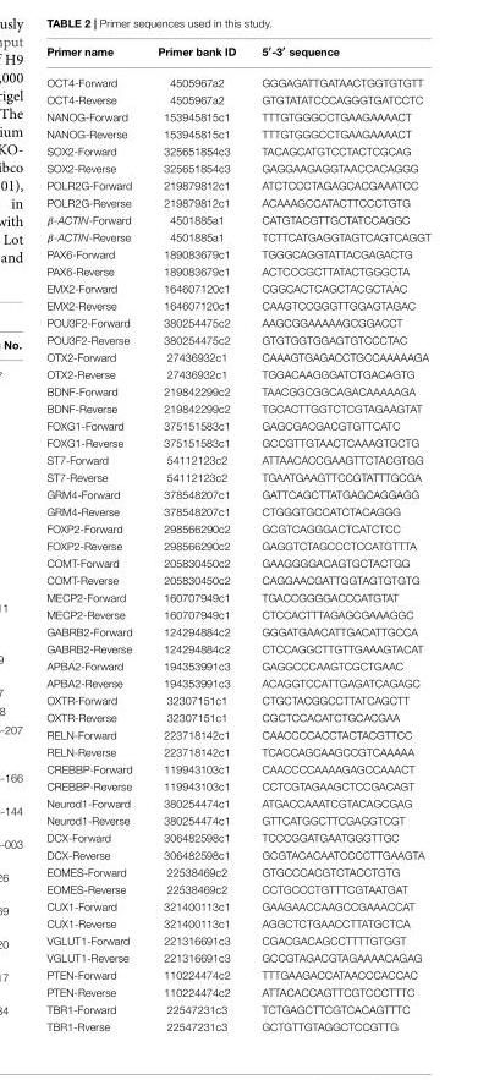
<table><thead><tr><td>Primer name</td><td>Primer bank ID</td><td>5′-3′ sequence</td></tr></thead><tbody><tr><td>OCT4-Forward</td><td>4505967a2</td><td>GGGAGATTGATAACTGGTGTGTT</td></tr><tr><td>OCT4-Reverse</td><td>4505967a2</td><td>GTGTATATCCCAGGGTGATCCTC</td></tr><tr><td>NANOG-Forward</td><td>153945815c1</td><td>TTTGTGGGCCTGAAGAAAACT</td></tr><tr><td>NANOG-Reverse</td><td>153945815c1</td><td>TTTGTGGGCCTGAAGAAAACT</td></tr><tr><td>SOX2-Forward</td><td>325651854c3</td><td>TACAGCATGTCCTACTCGCAG</td></tr><tr><td>SOX2-Reverse</td><td>325651854c3</td><td>GAGGAAGAGGTAACCACAGGG</td></tr><tr><td>POLR2G-Forward</td><td>219879812c1</td><td>ATCTCCCTAGAGCACGAAATCC</td></tr><tr><td>POLR2G-Reverse</td><td>219879812c1</td><td>ACAAAGCCATACTTCCCTGTG</td></tr><tr><td>β-ACTIN-Forward</td><td>4501885a1</td><td>CATGTACGTTGCTATCCAGGC</td></tr><tr><td>β-ACTIN-Reverse</td><td>4501885a1</td><td>TCTTCATGAGGTAGTCAGTCAGGT</td></tr><tr><td>PAX6-Forward</td><td>189083679c1</td><td>TGGGCAGGTATTACGAGACTG</td></tr><tr><td>PAX6-Reverse</td><td>189083679c1</td><td>ACTCCCGCTTATACTGGGCTA</td></tr><tr><td>EMX2-Forward</td><td>164607120c1</td><td>CGGCACTCAGCTACGCTAAC</td></tr><tr><td>EMX2-Reverse</td><td>164607120c1</td><td>CAAGTCCGGGTTGGAGTAGAC</td></tr><tr><td>POU3F2-Forward</td><td>380254475c2</td><td>AAGCGGAAAAAGCGGACCT</td></tr><tr><td>POU3F2-Reverse</td><td>380254475c2</td><td>GTGTGGTGGAGTGTCCCTAC</td></tr><tr><td>OTX2-Forward</td><td>27436932c1</td><td>CAAAGTGAGACCTGCCAAAAAGA</td></tr><tr><td>OTX2-Reverse</td><td>27436932c1</td><td>TGGACAAGGGATCTGACAGTG</td></tr><tr><td>BDNF-Forward</td><td>219842299c2</td><td>TAACGGCGGCAGACAAAAAGA</td></tr><tr><td>BDNF-Reverse</td><td>219842299c2</td><td>TGCACTTGGTCTCGTAGAAGTAT</td></tr><tr><td>FOXG1-Forward</td><td>375151583c1</td><td>GAGCGACGACGTGTTCATC</td></tr><tr><td>FOXG1-Reverse</td><td>375151583c1</td><td>GCCGTTGTAACTCAAAGTGCTG</td></tr><tr><td>ST7-Forward</td><td>54112123c2</td><td>ATTAACACCGAAGTTCTACGTGG</td></tr><tr><td>ST7-Reverse</td><td>54112123c2</td><td>TGAATGAAGTTCCGTATTTGCGA</td></tr><tr><td>GRM4-Forward</td><td>378548207c1</td><td>GATTCAGCTTATGAGCAGGAGG</td></tr><tr><td>GRM4-Reverse</td><td>378548207c1</td><td>CTGGGTGCCATCTACAGGG</td></tr><tr><td>FOXP2-Forward</td><td>298566290c2</td><td>GCGTCAGGGACTCATCTCC</td></tr><tr><td>FOXP2-Reverse</td><td>298566290c2</td><td>GAGGTCTAGCCCTCCATGTTTA</td></tr><tr><td>COMT-Forward</td><td>205830450c2</td><td>GAAGGGGACAGTGCTACTGG</td></tr><tr><td>COMT-Reverse</td><td>205830450c2</td><td>CAGGAACGATTGGTAGTGTGTG</td></tr><tr><td>MECP2-Forward</td><td>160707949c1</td><td>TGACCGGGGACCCATGTAT</td></tr><tr><td>MECP2-Reverse</td><td>160707949c1</td><td>CTCCACTTTAGAGCGAAAGGC</td></tr><tr><td>GABRB2-Forward</td><td>124294884c2</td><td>GGGATGAACATTGACATTGCCA</td></tr><tr><td>GABRB2-Reverse</td><td>124294884c2</td><td>CTCCAGGCTTGTTGAAAGTACAT</td></tr><tr><td>APBA2-Forward</td><td>194353991c3</td><td>GAGGCCCAAGTCGCTGAAC</td></tr><tr><td>APBA2-Reverse</td><td>194353991c3</td><td>ACAGGTCCATTGAGATCAGAGC</td></tr><tr><td>OXTR-Forward</td><td>32307151c1</td><td>CTGCTACGGCCTTATCAGCTT</td></tr><tr><td>OXTR-Reverse</td><td>32307151c1</td><td>CGCTCCACATCTGCACGAA</td></tr><tr><td>RELN-Forward</td><td>223718142c1</td><td>CAACCCCACCTACTACGTTCC</td></tr><tr><td>RELN-Reverse</td><td>223718142c1</td><td>TCACCAGCAAGCCGTCAAAAA</td></tr><tr><td>CREBBP-Forward</td><td>119943103c1</td><td>CAACCCCAAAAGAGCCAAACT</td></tr><tr><td>CREBBP-Reverse</td><td>119943103c1</td><td>CCTCGTAGAAGCTCCGACAGT</td></tr><tr><td>Neurod1-Forward</td><td>380254474c1</td><td>ATGACCAAATCGTACAGCGAG</td></tr><tr><td>Neurod1-Reverse</td><td>380254474c1</td><td>GTTCATGGCTTCGAGGTCGT</td></tr><tr><td>DCX-Forward</td><td>306482598c1</td><td>TCCCGGATGAATGGGTTGC</td></tr><tr><td>DCX-Reverse</td><td>306482598c1</td><td>GCGTACACAATCCCCTTGAAGTA</td></tr><tr><td>EOMES-Forward</td><td>22538469c2</td><td>GTGCCCACGTCTACCTGTG</td></tr><tr><td>EOMES-Reverse</td><td>22538469c2</td><td>CCTGCCCTGTTTCGTAATGAT</td></tr><tr><td>CUX1-Forward</td><td>321400113c1</td><td>GAAGAACCAAGCCGAAACCAT</td></tr><tr><td>CUX1-Reverse</td><td>321400113c1</td><td>AGGCTCTGAACCTTATGCTCA</td></tr><tr><td>VGLUT1-Forward</td><td>221316691c3</td><td>CGACGACAGCCTTTTGTGGT</td></tr><tr><td>VGLUT1-Reverse</td><td>221316691c3</td><td>GCCGTAGACGTAGAAAACAGAG</td></tr><tr><td>PTEN-Forward</td><td>110224474c2</td><td>TTTGAAGACCATAACCCACCAC</td></tr><tr><td>PTEN-Reverse</td><td>110224474c2</td><td>ATTACACCAGTTCGTCCCTTTC</td></tr><tr><td>TBR1-Forward</td><td>22547231c3</td><td>TCTGAGCTTCGTCACAGTTTC</td></tr><tr><td>TBR1-Rverse</td><td>22547231c3</td><td>GCTGTTGTAGGCTCCGTTG</td></tr></tbody></table>